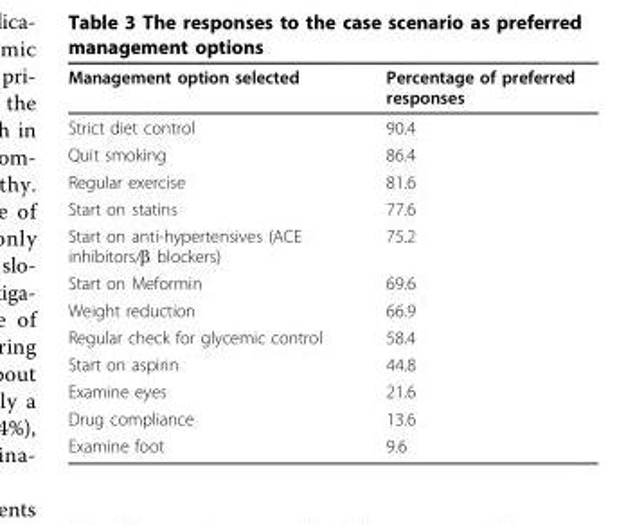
<table><thead><tr><td>Management option selected</td><td>Percentage of preferred responses</td></tr></thead><tbody><tr><td>Strict diet control</td><td>90.4</td></tr><tr><td>Quit smoking</td><td>86.4</td></tr><tr><td>Regular exercise</td><td>81.6</td></tr><tr><td>Start on statins</td><td>77.6</td></tr><tr><td>Start on anti-hypertensives (ACE inhibitors/β blockers)</td><td>75.2</td></tr><tr><td>Start on Meformin</td><td>69.6</td></tr><tr><td>Weight reduction</td><td>66.9</td></tr><tr><td>Regular check for glycemic control</td><td>58.4</td></tr><tr><td>Start on aspirin</td><td>44.8</td></tr><tr><td>Examine eyes</td><td>21.6</td></tr><tr><td>Drug compliance</td><td>13.6</td></tr><tr><td>Examine foot</td><td>9.6</td></tr></tbody></table>